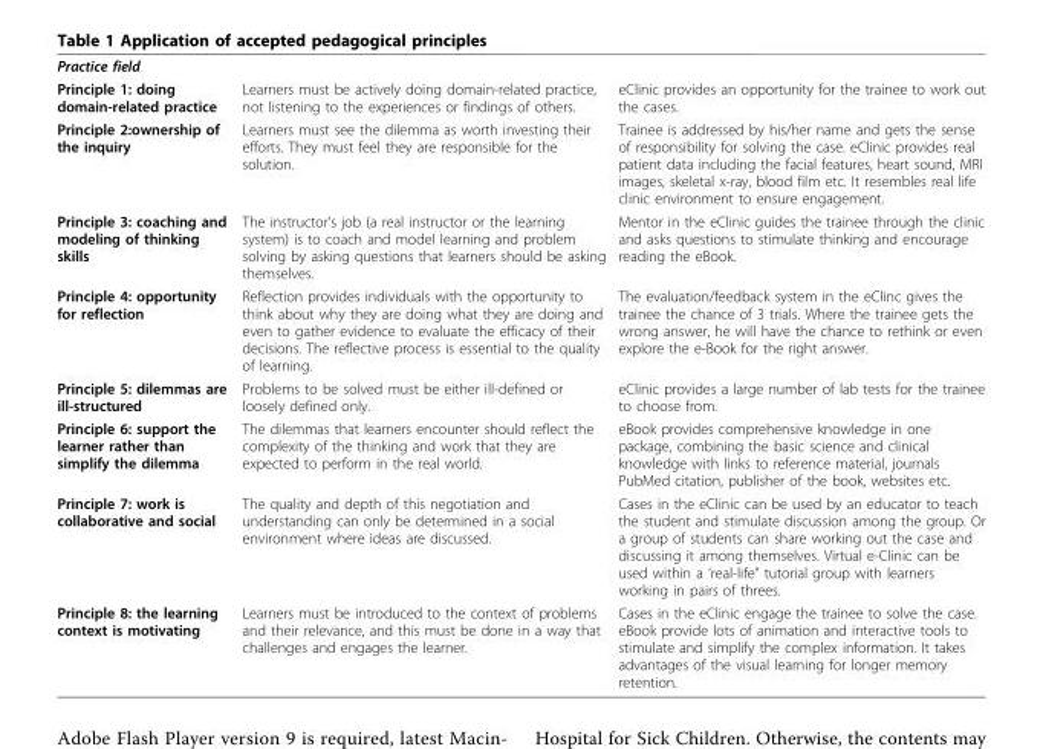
<table><tbody><tr><td colspan="3">Practice field</td></tr><tr><td>Principle 1: doing domain-related practice</td><td>Learners must be actively doing domain-related practice, not listening to the experiences or findings of others.</td><td>eClinic provides an opportunity for the trainee to work out the cases.</td></tr><tr><td>Principle 2:ownership of the inquiry</td><td>Learners must see the dilemma as worth investing their efforts. They must feel they are responsible for the solution.</td><td>Trainee is addressed by his/her name and gets the sense of responsibility for solving the case. eClinic provides real patient data including the facial features, heart sound, MRI images, skeletal x-ray, blood film etc. It resembles real life clinic environment to ensure engagement.</td></tr><tr><td>Principle 3: coaching and modeling of thinking skills</td><td>The instructor’s job (a real instructor or the learning system) is to coach and model learning and problem solving by asking questions that learners should be asking themselves.</td><td>Mentor in the eClinic guides the trainee through the clinic and asks questions to stimulate thinking and encourage reading the eBook.</td></tr><tr><td>Principle 4: opportunity for reflection</td><td>Reflection provides individuals with the opportunity to think about why they are doing what they are doing and even to gather evidence to evaluate the efficacy of their decisions. The reflective process is essential to the quality of learning.</td><td>The evaluation/feedback system in the eClinc gives the trainee the chance of 3 trials. Where the trainee gets the wrong answer, he will have the chance to rethink or even explore the e-Book for the right answer.</td></tr><tr><td>Principle 5: dilemmas are ill-structured</td><td>Problems to be solved must be either ill-defined or loosely defined only.</td><td>eClinic provides a large number of lab tests for the trainee to choose from.</td></tr><tr><td>Principle 6: support the learner rather than simplify the dilemma</td><td>The dilemmas that learners encounter should reflect the complexity of the thinking and work that they are expected to perform in the real world.</td><td>eBook provides comprehensive knowledge in one package, combining the basic science and clinical knowledge with links to reference material, journals PubMed citation, publisher of the book, websites etc.</td></tr><tr><td>Principle 7: work is collaborative and social</td><td>The quality and depth of this negotiation and understanding can only be determined in a social environment where ideas are discussed.</td><td>Cases in the eClinic can be used by an educator to teach the student and stimulate discussion among the group. Or a group of students can share working out the case and discussing it among themselves. Virtual e-Clinic can be used within a ‘real-life” tutorial group with learners working in pairs of threes.</td></tr><tr><td>Principle 8: the learning context is motivating</td><td>Learners must be introduced to the context of problems and their relevance, and this must be done in a way that challenges and engages the learner.</td><td>Cases in the eClinic engage the trainee to solve the case. eBook provide lots of animation and interactive tools to stimulate and simplify the complex information. It takes advantages of the visual learning for longer memory retention.</td></tr></tbody></table>